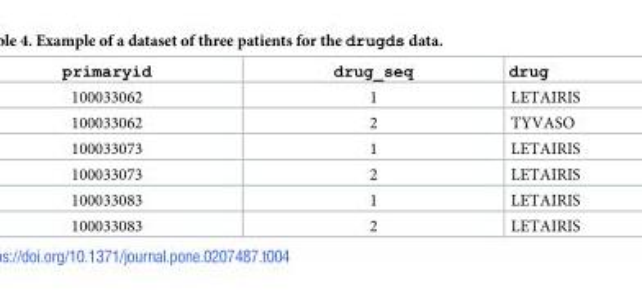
<table><thead><tr><td>primaryid</td><td>drug_seq</td><td>drug</td></tr></thead><tbody><tr><td>100033062</td><td>1</td><td>LETAIRIS</td></tr><tr><td>100033062</td><td>2</td><td>TYVASO</td></tr><tr><td>100033073</td><td>1</td><td>LETAIRIS</td></tr><tr><td>100033073</td><td>2</td><td>LETAIRIS</td></tr><tr><td>100033083</td><td>1</td><td>LETAIRIS</td></tr><tr><td>100033083</td><td>2</td><td>LETAIRIS</td></tr></tbody></table>